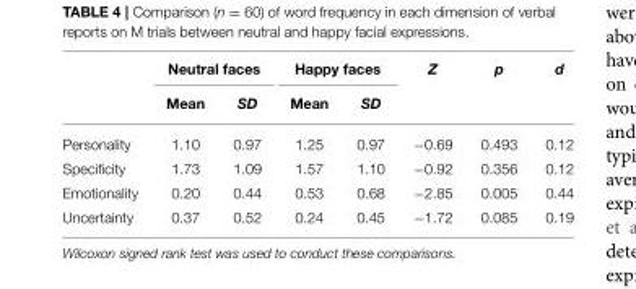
<table><thead><tr><td rowspan="2"></td><td colspan="2">Neutral faces</td><td colspan="2">Happy faces</td><td rowspan="2">Z</td><td rowspan="2">p</td><td rowspan="2">d</td></tr><tr><td>Mean</td><td>SD</td><td>Mean</td><td>SD</td></tr></thead><tbody><tr><td>Personality</td><td>1.10</td><td>0.97</td><td>1.25</td><td>0.97</td><td>−0.69</td><td>0.493</td><td>0.12</td></tr><tr><td>Specificity</td><td>1.73</td><td>1.09</td><td>1.57</td><td>1.10</td><td>−0.92</td><td>0.356</td><td>0.12</td></tr><tr><td>Emotionality</td><td>0.20</td><td>0.44</td><td>0.53</td><td>0.68</td><td>−2.85</td><td>0.005</td><td>0.44</td></tr><tr><td>Uncertainty</td><td>0.37</td><td>0.52</td><td>0.24</td><td>0.45</td><td>−1.72</td><td>0.085</td><td>0.19</td></tr></tbody></table>